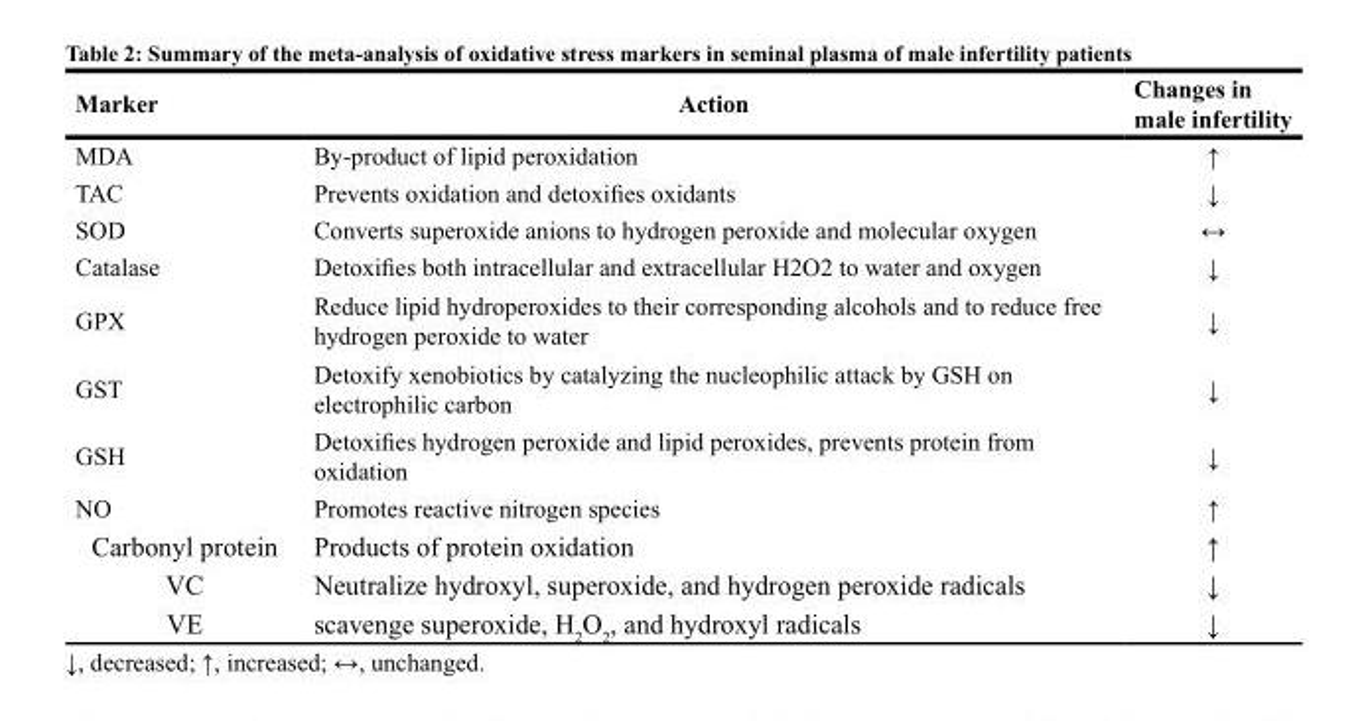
<table><thead><tr><td>Marker</td><td>Action</td><td>Changes in male infertility</td></tr></thead><tbody><tr><td>MDA</td><td>By-product of lipid peroxidation</td><td>↑</td></tr><tr><td>TAC</td><td>Prevents oxidation and detoxifies oxidants</td><td>↓</td></tr><tr><td>SOD</td><td>Converts superoxide anions to hydrogen peroxide and molecular oxygen</td><td>↔</td></tr><tr><td>Catalase</td><td>Detoxifies both intracellular and extracellular H2O2 to water and oxygen</td><td>↓</td></tr><tr><td>GPX</td><td>Reduce lipid hydroperoxides to their corresponding alcohols and to reduce free hydrogen peroxide to water</td><td>↓</td></tr><tr><td>GST</td><td>Detoxify xenobiotics by catalyzing the nucleophilic attack by GSH on electrophilic carbon</td><td>↓</td></tr><tr><td>GSH</td><td>Detoxifies hydrogen peroxide and lipid peroxides, prevents protein from oxidation</td><td>↓</td></tr><tr><td>NO</td><td>Promotes reactive nitrogen species</td><td>↑</td></tr><tr><td>Carbonyl protein</td><td>Products of protein oxidation</td><td>↑</td></tr><tr><td>VC</td><td>Neutralize hydroxyl, superoxide, and hydrogen peroxide radicals</td><td>↓</td></tr><tr><td>VE</td><td>scavenge superoxide, H<sub>2</sub>O<sub>2</sub>, and hydroxyl radicals</td><td>↓</td></tr></tbody></table>